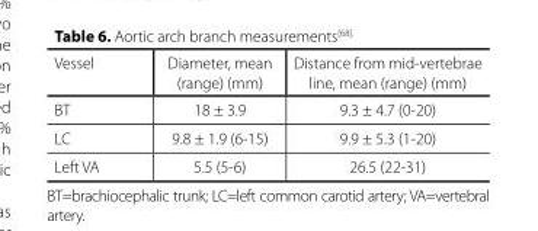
<table><thead><tr><td>Vessel</td><td>Diameter, mean (range) (mm)</td><td>Distance from mid-vertebrae line, mean (range) (mm)</td></tr></thead><tbody><tr><td>BT</td><td>18 ± 3.9</td><td>9.3 ± 4.7 (0-20)</td></tr><tr><td>LC</td><td>9.8 ± 1.9 (6-15)</td><td>9.9 ± 5.3 (1-20)</td></tr><tr><td>Left VA</td><td>5.5 (5-6)</td><td>26.5 (22-31)</td></tr></tbody></table>